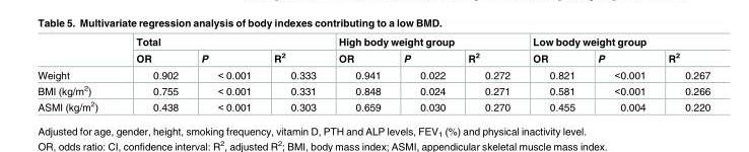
<table><thead><tr><td rowspan="2"></td><td colspan="3">Total</td><td colspan="3">High body weight group</td><td colspan="3">Low body weight group</td></tr><tr><td>OR</td><td>P</td><td>R<sup>2</sup></td><td>OR</td><td>P</td><td>R<sup>2</sup></td><td>OR</td><td>P</td><td>R<sup>2</sup></td></tr></thead><tbody><tr><td>Weight</td><td>0.902</td><td>&lt; 0.001</td><td>0.333</td><td>0.941</td><td>0.022</td><td>0.272</td><td>0.821</td><td>&lt;0.001</td><td>0.267</td></tr><tr><td>BMI (kg/m<sup>2</sup>)</td><td>0.755</td><td>&lt; 0.001</td><td>0.331</td><td>0.848</td><td>0.024</td><td>0.271</td><td>0.581</td><td>&lt;0.001</td><td>0.266</td></tr><tr><td>ASMI (kg/m<sup>2</sup>)</td><td>0.438</td><td>&lt; 0.001</td><td>0.303</td><td>0.659</td><td>0.030</td><td>0.270</td><td>0.455</td><td>0.004</td><td>0.220</td></tr></tbody></table>